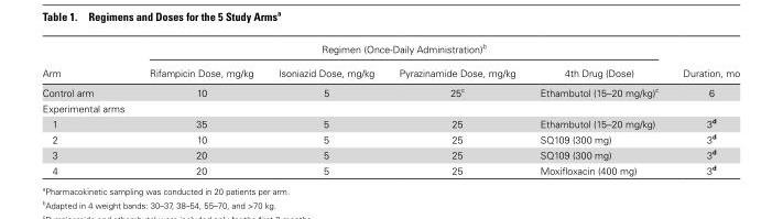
<table><thead><tr><td rowspan="2">Arm</td><td colspan="4">Regimen (Once-Daily Administration)<sup>b</sup></td><td rowspan="2">Duration, mo</td></tr><tr><td>Rifampicin Dose, mg/kg</td><td>Isoniazid Dose, mg/kg</td><td>Pyrazinamide Dose, mg/kg</td><td>4th Drug (Dose)</td></tr></thead><tbody><tr><td>Control arm</td><td>10</td><td>5</td><td>25<sup>c</sup></td><td>Ethambutol (15–20 mg/kg)<sup>c</sup></td><td>6</td></tr><tr><td colspan="6">Experimental arms</td></tr><tr><td>1</td><td>35</td><td>5</td><td>25</td><td>Ethambutol (15–20 mg/kg)</td><td>3<sup>d</sup></td></tr><tr><td>2</td><td>10</td><td>5</td><td>25</td><td>SQ109 (300 mg)</td><td>3<sup>d</sup></td></tr><tr><td>3</td><td>20</td><td>5</td><td>25</td><td>SQ109 (300 mg)</td><td>3<sup>d</sup></td></tr><tr><td>4</td><td>20</td><td>5</td><td>25</td><td>Moxifloxacin (400 mg)</td><td>3<sup>d</sup></td></tr></tbody></table>